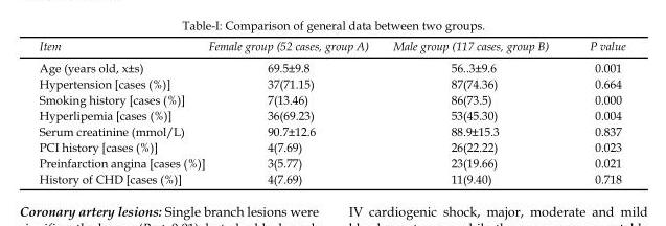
<table><thead><tr><td>Item</td><td>Female group (52 cases, group A)</td><td>Male group (117 cases, group B)</td><td>P value</td></tr></thead><tbody><tr><td>Age (years old, x±s)</td><td>69.5±9.8</td><td>56..3±9.6</td><td>0.001</td></tr><tr><td>Hypertension [cases (%)]</td><td>37(71.15)</td><td>87(74.36)</td><td>0.664</td></tr><tr><td>Smoking history [cases (%)]</td><td>7(13.46)</td><td>86(73.5)</td><td>0.000</td></tr><tr><td>Hyperlipemia [cases (%)]</td><td>36(69.23)</td><td>53(45.30)</td><td>0.004</td></tr><tr><td>Serum creatinine (mmol/L)</td><td>90.7±12.6</td><td>88.9±15.3</td><td>0.837</td></tr><tr><td>PCI history [cases (%)]</td><td>4(7.69)</td><td>26(22.22)</td><td>0.023</td></tr><tr><td>Preinfarction angina [cases (%)]</td><td>3(5.77)</td><td>23(19.66)</td><td>0.021</td></tr><tr><td>History of CHD [cases (%)]</td><td>4(7.69)</td><td>11(9.40)</td><td>0.718</td></tr></tbody></table>